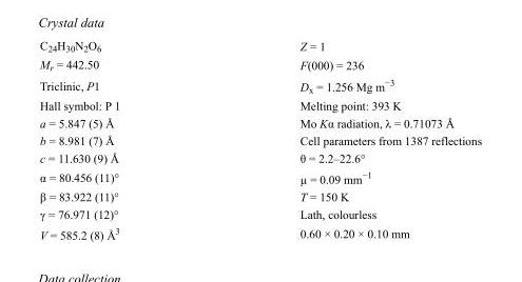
<table><tbody><tr><td>C<sub>24</sub>H<sub>30</sub>N<sub>2</sub>O<sub>6</sub></td><td>Z = 1</td></tr><tr><td>M<sub>r</sub> = 442.50</td><td>F(000) = 236</td></tr><tr><td>Triclinic, P1</td><td>D<sub>x</sub> = 1.256 Mg m<sup>−3</sup></td></tr><tr><td>Hall symbol: P 1</td><td>Melting point: 393 K</td></tr><tr><td>a = 5.847 (5) Å</td><td>Mo Kα radiation, λ = 0.71073 Å</td></tr><tr><td>b = 8.981 (7) Å</td><td>Cell parameters from 1387 reflections</td></tr><tr><td>c = 11.630 (9) Å</td><td>θ = 2.2–22.6°</td></tr><tr><td>α = 80.456 (11)°</td><td>µ = 0.09 mm<sup>−1</sup></td></tr><tr><td>β = 83.922 (11)°</td><td>T = 150 K</td></tr><tr><td>γ = 76.971 (12)°</td><td>Lath, colourless</td></tr><tr><td>V = 585.2 (8) Å<sup>3</sup></td><td>0.60 × 0.20 × 0.10 mm</td></tr></tbody></table>